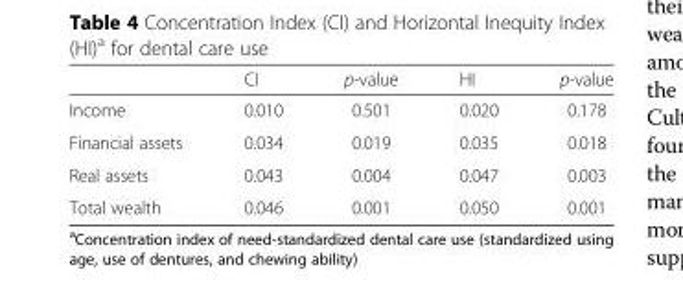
<table><thead><tr><td></td><td>CI</td><td>p-value</td><td>HI</td><td>p-value</td></tr></thead><tbody><tr><td>Income</td><td>0.010</td><td>0.501</td><td>0.020</td><td>0.178</td></tr><tr><td>Financial assets</td><td>0.034</td><td>0.019</td><td>0.035</td><td>0.018</td></tr><tr><td>Real assets</td><td>0.043</td><td>0.004</td><td>0.047</td><td>0.003</td></tr><tr><td>Total wealth</td><td>0.046</td><td>0.001</td><td>0.050</td><td>0.001</td></tr></tbody></table>